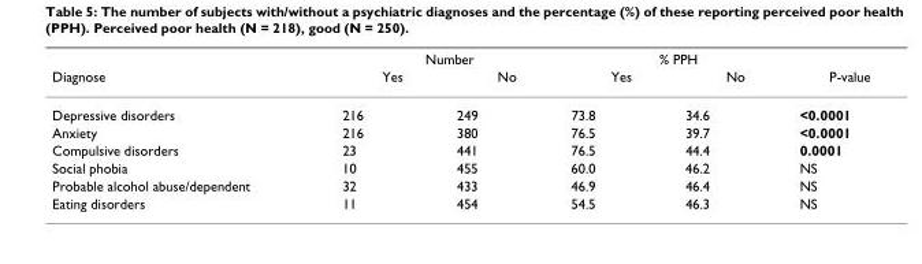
<table><thead><tr><td rowspan="2">Diagnose</td><td colspan="2">Number</td><td colspan="2">% PPH</td><td rowspan="2">P-value</td></tr><tr><td>Yes</td><td>No</td><td>Yes</td><td>No</td></tr></thead><tbody><tr><td>Depressive disorders</td><td>216</td><td>249</td><td>73.8</td><td>34.6</td><td>&lt;0.0001</td></tr><tr><td>Anxiety</td><td>216</td><td>380</td><td>76.5</td><td>39.7</td><td>&lt;0.0001</td></tr><tr><td>Compulsive disorders</td><td>23</td><td>441</td><td>76.5</td><td>44.4</td><td>0.0001</td></tr><tr><td>Social phobia</td><td>10</td><td>455</td><td>60.0</td><td>46.2</td><td>NS</td></tr><tr><td>Probable alcohol abuse/dependent</td><td>32</td><td>433</td><td>46.9</td><td>46.4</td><td>NS</td></tr><tr><td>Eating disorders</td><td>11</td><td>454</td><td>54.5</td><td>46.3</td><td>NS</td></tr></tbody></table>